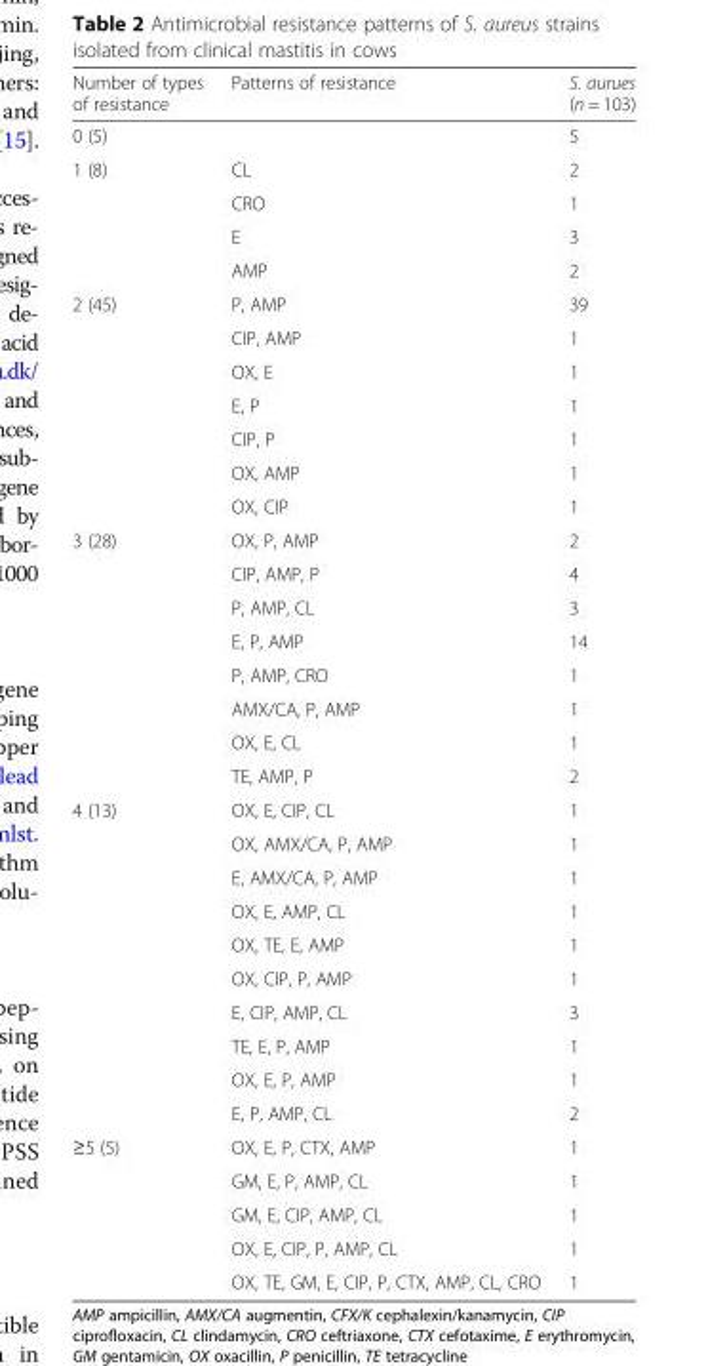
<table><thead><tr><td>Number of types of resistance</td><td>Patterns of resistance</td><td>S. aurues (n = 103)</td></tr></thead><tbody><tr><td>0 (5)</td><td></td><td>5</td></tr><tr><td rowspan="4">1 (8)</td><td>CL</td><td>2</td></tr><tr><td>CRO</td><td>1</td></tr><tr><td>E</td><td>3</td></tr><tr><td>AMP</td><td>2</td></tr><tr><td rowspan="7">2 (45)</td><td>P, AMP</td><td>39</td></tr><tr><td>CIP, AMP</td><td>1</td></tr><tr><td>OX, E</td><td>1</td></tr><tr><td>E, P</td><td>1</td></tr><tr><td>CIP, P</td><td>1</td></tr><tr><td>OX, AMP</td><td>1</td></tr><tr><td>OX, CIP</td><td>1</td></tr><tr><td rowspan="8">3 (28)</td><td>OX, P, AMP</td><td>2</td></tr><tr><td>CIP, AMP, P</td><td>4</td></tr><tr><td>P, AMP, CL</td><td>3</td></tr><tr><td>E, P, AMP</td><td>14</td></tr><tr><td>P, AMP, CRO</td><td>1</td></tr><tr><td>AMX/CA, P, AMP</td><td>1</td></tr><tr><td>OX, E, CL</td><td>1</td></tr><tr><td>TE, AMP, P</td><td>2</td></tr><tr><td rowspan="10">4 (13)</td><td>OX, E, CIP, CL</td><td>1</td></tr><tr><td>OX, AMX/CA, P, AMP</td><td>1</td></tr><tr><td>E, AMX/CA, P, AMP</td><td>1</td></tr><tr><td>OX, E, AMP, CL</td><td>1</td></tr><tr><td>OX, TE, E, AMP</td><td>1</td></tr><tr><td>OX, CIP, P, AMP</td><td>1</td></tr><tr><td>E, CIP, AMP, CL</td><td>3</td></tr><tr><td>TE, E, P, AMP</td><td>1</td></tr><tr><td>OX, E, P, AMP</td><td>1</td></tr><tr><td>E, P, AMP, CL</td><td>2</td></tr><tr><td rowspan="5">≥5 (5)</td><td>OX, E, P, CTX, AMP</td><td>1</td></tr><tr><td>GM, E, P, AMP, CL</td><td>1</td></tr><tr><td>GM, E, CIP, AMP, CL</td><td>1</td></tr><tr><td>OX, E, CIP, P, AMP, CL</td><td>1</td></tr><tr><td>OX, TE, GM, E, CIP, P, CTX, AMP, CL, CRO</td><td>1</td></tr></tbody></table>